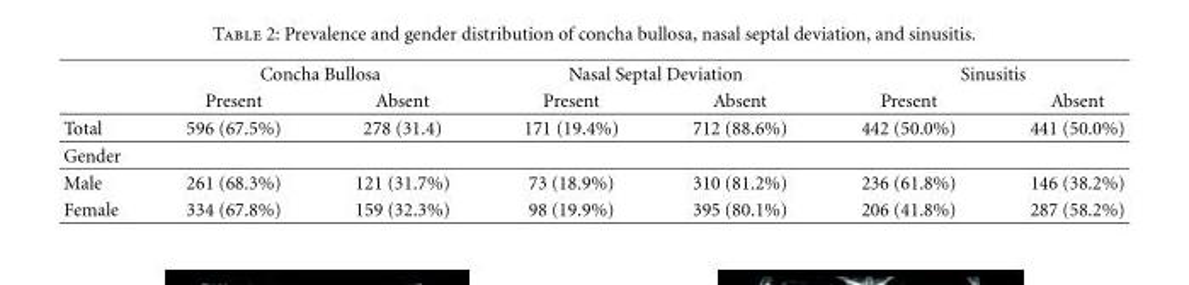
<table><thead><tr><td rowspan="2"></td><td colspan="2">Concha Bullosa</td><td colspan="2">Nasal Septal Deviation</td><td colspan="2">Sinusitis</td></tr><tr><td>Present</td><td>Absent</td><td>Present</td><td>Absent</td><td>Present</td><td>Absent</td></tr></thead><tbody><tr><td>Total</td><td>596 (67.5%)</td><td>278 (31.4)</td><td>171 (19.4%)</td><td>712 (88.6%)</td><td>442 (50.0%)</td><td>441 (50.0%)</td></tr><tr><td colspan="7">Gender</td></tr><tr><td>Male</td><td>261 (68.3%)</td><td>121 (31.7%)</td><td>73 (18.9%)</td><td>310 (81.2%)</td><td>236 (61.8%)</td><td>146 (38.2%)</td></tr><tr><td>Female</td><td>334 (67.8%)</td><td>159 (32.3%)</td><td>98 (19.9%)</td><td>395 (80.1%)</td><td>206 (41.8%)</td><td>287 (58.2%)</td></tr></tbody></table>